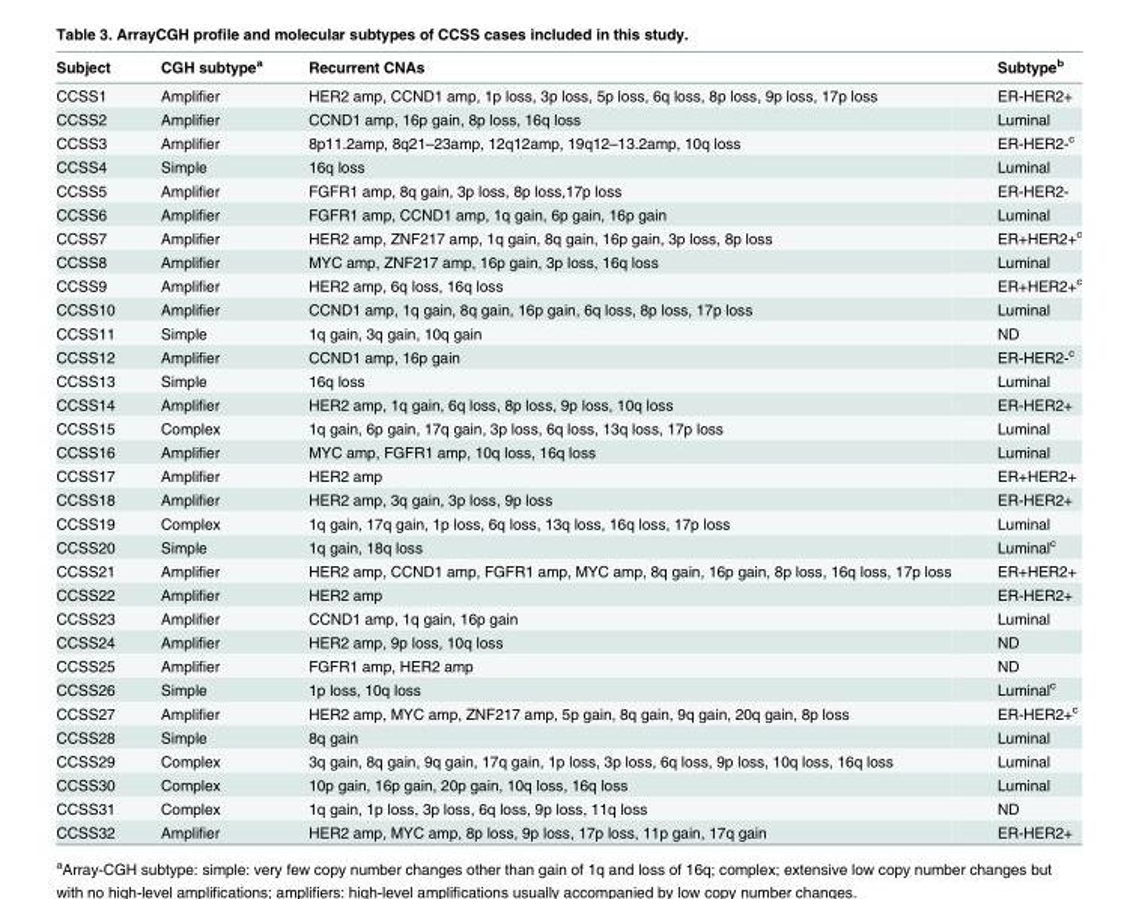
<table><thead><tr><td>Subject</td><td>CGH subtype<sup>a</sup></td><td>Recurrent CNAs</td><td>Subtype<sup>b</sup></td></tr></thead><tbody><tr><td>CCSS1</td><td>Amplifier</td><td>HER2 amp, CCND1 amp, 1p loss, 3p loss, 5p loss, 6q loss, 8p loss, 9p loss, 17p loss</td><td>ER-HER2+</td></tr><tr><td>CCSS2</td><td>Amplifier</td><td>CCND1 amp, 16p gain, 8p loss, 16q loss</td><td>Luminal</td></tr><tr><td>CCSS3</td><td>Amplifier</td><td>8p11.2amp, 8q21–23amp, 12q12amp, 19q12–13.2amp, 10q loss</td><td>ER-HER2-<sup>c</sup></td></tr><tr><td>CCSS4</td><td>Simple</td><td>16q loss</td><td>Luminal</td></tr><tr><td>CCSS5</td><td>Amplifier</td><td>FGFR1 amp, 8q gain, 3p loss, 8p loss,17p loss</td><td>ER-HER2-</td></tr><tr><td>CCSS6</td><td>Amplifier</td><td>FGFR1 amp, CCND1 amp, 1q gain, 6p gain, 16p gain</td><td>Luminal</td></tr><tr><td>CCSS7</td><td>Amplifier</td><td>HER2 amp, ZNF217 amp, 1q gain, 8q gain, 16p gain, 3p loss, 8p loss</td><td>ER+HER2+<sup>c</sup></td></tr><tr><td>CCSS8</td><td>Amplifier</td><td>MYC amp, ZNF217 amp, 16p gain, 3p loss, 16q loss</td><td>Luminal</td></tr><tr><td>CCSS9</td><td>Amplifier</td><td>HER2 amp, 6q loss, 16q loss</td><td>ER+HER2+<sup>c</sup></td></tr><tr><td>CCSS10</td><td>Amplifier</td><td>CCND1 amp, 1q gain, 8q gain, 16p gain, 6q loss, 8p loss, 17p loss</td><td>Luminal</td></tr><tr><td>CCSS11</td><td>Simple</td><td>1q gain, 3q gain, 10q gain</td><td>ND</td></tr><tr><td>CCSS12</td><td>Amplifier</td><td>CCND1 amp, 16p gain</td><td>ER-HER2-<sup>c</sup></td></tr><tr><td>CCSS13</td><td>Simple</td><td>16q loss</td><td>Luminal</td></tr><tr><td>CCSS14</td><td>Amplifier</td><td>HER2 amp, 1q gain, 6q loss, 8p loss, 9p loss, 10q loss</td><td>ER-HER2+</td></tr><tr><td>CCSS15</td><td>Complex</td><td>1q gain, 6p gain, 17q gain, 3p loss, 6q loss, 13q loss, 17p loss</td><td>Luminal</td></tr><tr><td>CCSS16</td><td>Amplifier</td><td>MYC amp, FGFR1 amp, 10q loss, 16q loss</td><td>Luminal</td></tr><tr><td>CCSS17</td><td>Amplifier</td><td>HER2 amp</td><td>ER+HER2+</td></tr><tr><td>CCSS18</td><td>Amplifier</td><td>HER2 amp, 3q gain, 3p loss, 9p loss</td><td>ER-HER2+</td></tr><tr><td>CCSS19</td><td>Complex</td><td>1q gain, 17q gain, 1p loss, 6q loss, 13q loss, 16q loss, 17p loss</td><td>Luminal</td></tr><tr><td>CCSS20</td><td>Simple</td><td>1q gain, 18q loss</td><td>Luminal<sup>c</sup></td></tr><tr><td>CCSS21</td><td>Amplifier</td><td>HER2 amp, CCND1 amp, FGFR1 amp, MYC amp, 8q gain, 16p gain, 8p loss, 16q loss, 17p loss</td><td>ER+HER2+</td></tr><tr><td>CCSS22</td><td>Amplifier</td><td>HER2 amp</td><td>ER-HER2+</td></tr><tr><td>CCSS23</td><td>Amplifier</td><td>CCND1 amp, 1q gain, 16p gain</td><td>Luminal</td></tr><tr><td>CCSS24</td><td>Amplifier</td><td>HER2 amp, 9p loss, 10q loss</td><td>ND</td></tr><tr><td>CCSS25</td><td>Amplifier</td><td>FGFR1 amp, HER2 amp</td><td>ND</td></tr><tr><td>CCSS26</td><td>Simple</td><td>1p loss, 10q loss</td><td>Luminal<sup>c</sup></td></tr><tr><td>CCSS27</td><td>Amplifier</td><td>HER2 amp, MYC amp, ZNF217 amp, 5p gain, 8q gain, 9q gain, 20q gain, 8p loss</td><td>ER-HER2+<sup>c</sup></td></tr><tr><td>CCSS28</td><td>Simple</td><td>8q gain</td><td>Luminal</td></tr><tr><td>CCSS29</td><td>Complex</td><td>3q gain, 8q gain, 9q gain, 17q gain, 1p loss, 3p loss, 6q loss, 9p loss, 10q loss, 16q loss</td><td>Luminal</td></tr><tr><td>CCSS30</td><td>Complex</td><td>10p gain, 16p gain, 20p gain, 10q loss, 16q loss</td><td>Luminal</td></tr><tr><td>CCSS31</td><td>Complex</td><td>1q gain, 1p loss, 3p loss, 6q loss, 9p loss, 11q loss</td><td>ND</td></tr><tr><td>CCSS32</td><td>Amplifier</td><td>HER2 amp, MYC amp, 8p loss, 9p loss, 17p loss, 11p gain, 17q gain</td><td>ER-HER2+</td></tr></tbody></table>